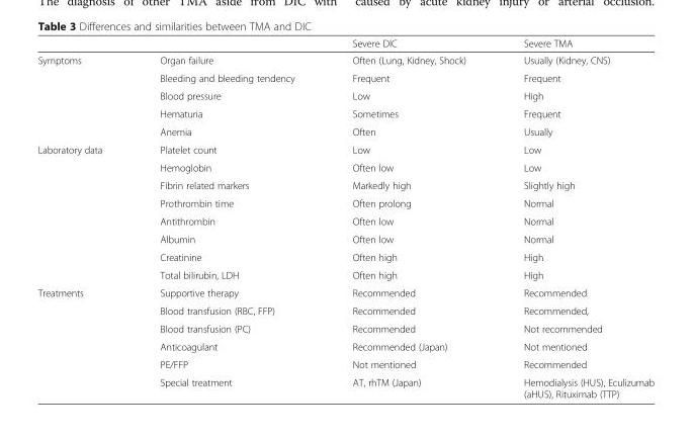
<table><thead><tr><td></td><td></td><td>Severe DIC</td><td>Severe TMA</td></tr></thead><tbody><tr><td rowspan="5">Symptoms</td><td>Organ failure</td><td>Often (Lung, Kidney, Shock)</td><td>Usually (Kidney, CNS)</td></tr><tr><td>Bleeding and bleeding tendency</td><td>Frequent</td><td>Frequent</td></tr><tr><td>Blood pressure</td><td>Low</td><td>High</td></tr><tr><td>Hematuria</td><td>Sometimes</td><td>Frequent</td></tr><tr><td>Anemia</td><td>Often</td><td>Usually</td></tr><tr><td rowspan="8">Laboratory data</td><td>Platelet count</td><td>Low</td><td>Low</td></tr><tr><td>Hemoglobin</td><td>Often low</td><td>Low</td></tr><tr><td>Fibrin related markers</td><td>Markedly high</td><td>Slightly high</td></tr><tr><td>Prothrombin time</td><td>Often prolong</td><td>Normal</td></tr><tr><td>Antithrombin</td><td>Often low</td><td>Normal</td></tr><tr><td>Albumin</td><td>Often low</td><td>Normal</td></tr><tr><td>Creatinine</td><td>Often high</td><td>High</td></tr><tr><td>Total bilirubin, LDH</td><td>Often high</td><td>High</td></tr><tr><td rowspan="6">Treatments</td><td>Supportive therapy</td><td>Recommended</td><td>Recommended</td></tr><tr><td>Blood transfusion (RBC, FFP)</td><td>Recommended</td><td>Recommended,</td></tr><tr><td>Blood transfusion (PC)</td><td>Recommended</td><td>Not recommended</td></tr><tr><td>Anticoagulant</td><td>Recommended (Japan)</td><td>Not mentioned</td></tr><tr><td>PE/FFP</td><td>Not mentioned</td><td>Recommended</td></tr><tr><td>Special treatment</td><td>AT, rhTM (Japan)</td><td>Hemodialysis (HUS), Eculizumab (aHUS), Rituximab (TTP)</td></tr></tbody></table>